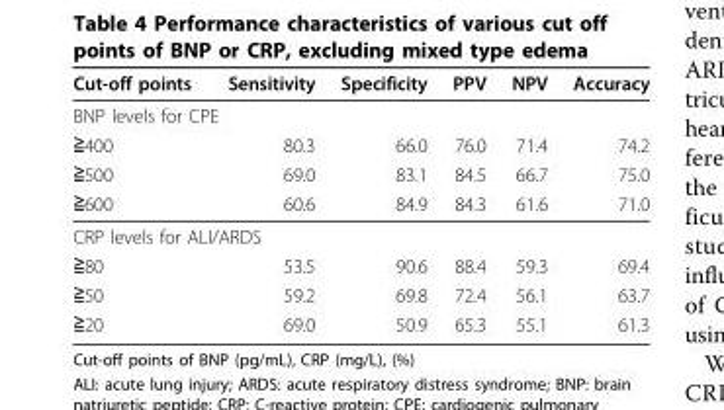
<table><thead><tr><td>Cut-off points</td><td>Sensitivity</td><td>Specificity</td><td>PPV</td><td>NPV</td><td>Accuracy</td></tr></thead><tbody><tr><td colspan="6">BNP levels for CPE</td></tr><tr><td>≧400</td><td>80.3</td><td>66.0</td><td>76.0</td><td>71.4</td><td>74.2</td></tr><tr><td>≧500</td><td>69.0</td><td>83.1</td><td>84.5</td><td>66.7</td><td>75.0</td></tr><tr><td>≧600</td><td>60.6</td><td>84.9</td><td>84.3</td><td>61.6</td><td>71.0</td></tr><tr><td colspan="6">CRP levels for ALI/ARDS</td></tr><tr><td>≧80</td><td>53.5</td><td>90.6</td><td>88.4</td><td>59.3</td><td>69.4</td></tr><tr><td>≧50</td><td>59.2</td><td>69.8</td><td>72.4</td><td>56.1</td><td>63.7</td></tr><tr><td>≧20</td><td>69.0</td><td>50.9</td><td>65.3</td><td>55.1</td><td>61.3</td></tr></tbody></table>